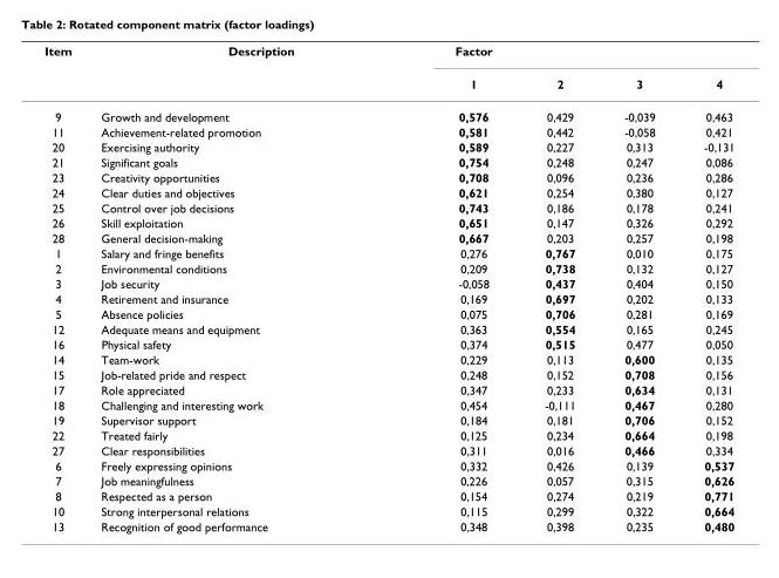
<table><thead><tr><td rowspan="2">Item</td><td rowspan="2">Description</td><td rowspan="2">Factor 1</td><td rowspan="2">2</td><td rowspan="2">3</td><td rowspan="2">4</td></tr><tr></tr></thead><tbody><tr><td>9</td><td>Growth and development</td><td>0,576</td><td>0,429</td><td>-0,039</td><td>0,463</td></tr><tr><td>11</td><td>Achievement-related promotion</td><td>0,581</td><td>0,442</td><td>-0,058</td><td>0,421</td></tr><tr><td>20</td><td>Exercising authority</td><td>0,589</td><td>0,227</td><td>0,313</td><td>-0,131</td></tr><tr><td>21</td><td>Significant goals</td><td>0,754</td><td>0,248</td><td>0,247</td><td>0,086</td></tr><tr><td>23</td><td>Creativity opportunities</td><td>0,708</td><td>0,096</td><td>0,236</td><td>0,286</td></tr><tr><td>24</td><td>Clear duties and objectives</td><td>0,621</td><td>0,254</td><td>0,380</td><td>0,127</td></tr><tr><td>25</td><td>Control over job decisions</td><td>0,743</td><td>0,186</td><td>0,178</td><td>0,241</td></tr><tr><td>26</td><td>Skill exploitation</td><td>0,651</td><td>0,147</td><td>0,326</td><td>0,292</td></tr><tr><td>28</td><td>General decision-making</td><td>0,667</td><td>0,203</td><td>0,257</td><td>0,198</td></tr><tr><td>1</td><td>Salary and fringe benefits</td><td>0,276</td><td>0,767</td><td>0,010</td><td>0,175</td></tr><tr><td>2</td><td>Environmental conditions</td><td>0,209</td><td>0,738</td><td>0,132</td><td>0,127</td></tr><tr><td>3</td><td>Job security</td><td>-0,058</td><td>0,437</td><td>0,404</td><td>0,150</td></tr><tr><td>4</td><td>Retirement and insurance</td><td>0,169</td><td>0,697</td><td>0,202</td><td>0,133</td></tr><tr><td>5</td><td>Absence policies</td><td>0,075</td><td>0,706</td><td>0,281</td><td>0,169</td></tr><tr><td>12</td><td>Adequate means and equipment</td><td>0,363</td><td>0,554</td><td>0,165</td><td>0,245</td></tr><tr><td>16</td><td>Physical safety</td><td>0,374</td><td>0,515</td><td>0,477</td><td>0,050</td></tr><tr><td>14</td><td>Team-work</td><td>0,229</td><td>0,113</td><td>0,600</td><td>0,135</td></tr><tr><td>15</td><td>Job-related pride and respect</td><td>0,248</td><td>0,152</td><td>0,708</td><td>0,156</td></tr><tr><td>17</td><td>Role appreciated</td><td>0,347</td><td>0,233</td><td>0,634</td><td>0,131</td></tr><tr><td>18</td><td>Challenging and interesting work</td><td>0,454</td><td>-0,111</td><td>0,467</td><td>0,280</td></tr><tr><td>19</td><td>Supervisor support</td><td>0,184</td><td>0,181</td><td>0,706</td><td>0,152</td></tr><tr><td>22</td><td>Treated fairly</td><td>0,125</td><td>0,234</td><td>0,664</td><td>0,198</td></tr><tr><td>27</td><td>Clear responsibilities</td><td>0,311</td><td>0,016</td><td>0,466</td><td>0,334</td></tr><tr><td>6</td><td>Freely expressing opinions</td><td>0,332</td><td>0,426</td><td>0,139</td><td>0,537</td></tr><tr><td>7</td><td>Job meaningfulness</td><td>0,226</td><td>0,057</td><td>0,315</td><td>0,626</td></tr><tr><td>8</td><td>Respected as a person</td><td>0,154</td><td>0,274</td><td>0,219</td><td>0,771</td></tr><tr><td>10</td><td>Strong interpersonal relations</td><td>0,115</td><td>0,299</td><td>0,322</td><td>0,664</td></tr><tr><td>13</td><td>Recognition of good performance</td><td>0,348</td><td>0,398</td><td>0,235</td><td>0,480</td></tr></tbody></table>